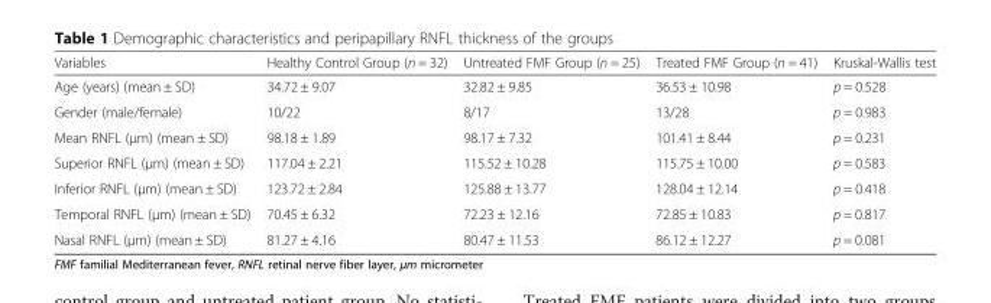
<table><thead><tr><td>Variables</td><td>Healthy Control Group (n = 32)</td><td>Untreated FMF Group (n = 25)</td><td>Treated FMF Group (n = 41)</td><td>Kruskal-Wallis test</td></tr></thead><tbody><tr><td>Age (years) (mean ± SD)</td><td>34.72 ± 9.07</td><td>32.82 ± 9.85</td><td>36.53 ± 10.98</td><td>p = 0.528</td></tr><tr><td>Gender (male/female)</td><td>10/22</td><td>8/17</td><td>13/28</td><td>p = 0.983</td></tr><tr><td>Mean RNFL (μm) (mean ± SD)</td><td>98.18 ± 1.89</td><td>98.17 ± 7.32</td><td>101.41 ± 8.44</td><td>p = 0.231</td></tr><tr><td>Superior RNFL (μm) (mean ± SD)</td><td>117.04 ± 2.21</td><td>115.52 ± 10.28</td><td>115.75 ± 10.00</td><td>p = 0.583</td></tr><tr><td>Inferior RNFL (μm) (mean ± SD)</td><td>123.72 ± 2.84</td><td>125.88 ± 13.77</td><td>128.04 ± 12.14</td><td>p = 0.418</td></tr><tr><td>Temporal RNFL (μm) (mean ± SD)</td><td>70.45 ± 6.32</td><td>72.23 ± 12.16</td><td>72.85 ± 10.83</td><td>p = 0.817</td></tr><tr><td>Nasal RNFL (μm) (mean ± SD)</td><td>81.27 ± 4.16</td><td>80.47 ± 11.53</td><td>86.12 ± 12.27</td><td>p = 0.081</td></tr></tbody></table>